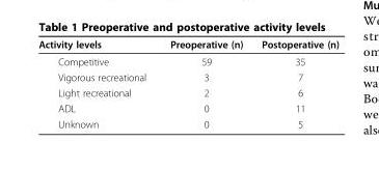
<table><thead><tr><td>Activity levels</td><td>Preoperative (n)</td><td>Postoperative (n)</td></tr></thead><tbody><tr><td>Competitive</td><td>59</td><td>35</td></tr><tr><td>Vigorous recreational</td><td>3</td><td>7</td></tr><tr><td>Light recreational</td><td>2</td><td>6</td></tr><tr><td>ADL</td><td>0</td><td>11</td></tr><tr><td>Unknown</td><td>0</td><td>5</td></tr></tbody></table>